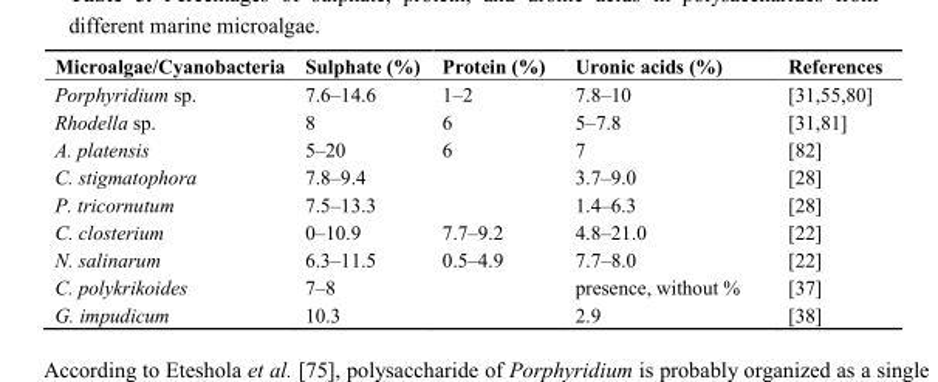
<table><thead><tr><td>Microalgae/Cyanobacteria</td><td>Sulphate (%)</td><td>Protein (%)</td><td>Uronic acids (%)</td><td>References</td></tr></thead><tbody><tr><td>Porphyridium sp.</td><td>7.6–14.6</td><td>1–2</td><td>7.8–10</td><td>[31,55,80]</td></tr><tr><td>Rhodella sp.</td><td>8</td><td>6</td><td>5–7.8</td><td>[31,81]</td></tr><tr><td>A. platensis</td><td>5–20</td><td>6</td><td>7</td><td>[82]</td></tr><tr><td>C. stigmatophora</td><td>7.8–9.4</td><td></td><td>3.7–9.0</td><td>[28]</td></tr><tr><td>P. tricornutum</td><td>7.5–13.3</td><td></td><td>1.4–6.3</td><td>[28]</td></tr><tr><td>C. closterium</td><td>0–10.9</td><td>7.7–9.2</td><td>4.8–21.0</td><td>[22]</td></tr><tr><td>N. salinarum</td><td>6.3–11.5</td><td>0.5–4.9</td><td>7.7–8.0</td><td>[22]</td></tr><tr><td>C. polykrikoides</td><td>7–8</td><td></td><td>presence, without %</td><td>[37]</td></tr><tr><td>G. impudicum</td><td>10.3</td><td></td><td>2.9</td><td>[38]</td></tr></tbody></table>